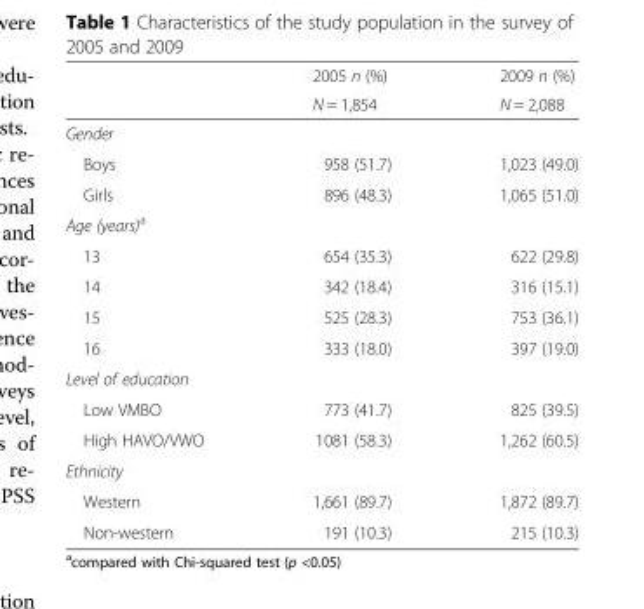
<table><thead><tr><td rowspan="2"></td><td rowspan="2">2005 n (%) N = 1,854</td><td rowspan="2">2009 n (%) N = 2,088</td></tr><tr></tr></thead><tbody><tr><td colspan="3">Gender</td></tr><tr><td>Boys</td><td>958 (51.7)</td><td>1,023 (49.0)</td></tr><tr><td>Girls</td><td>896 (48.3)</td><td>1,065 (51.0)</td></tr><tr><td colspan="3">Age (years)<sup>a</sup></td></tr><tr><td>13</td><td>654 (35.3)</td><td>622 (29.8)</td></tr><tr><td>14</td><td>342 (18.4)</td><td>316 (15.1)</td></tr><tr><td>15</td><td>525 (28.3)</td><td>753 (36.1)</td></tr><tr><td>16</td><td>333 (18.0)</td><td>397 (19.0)</td></tr><tr><td colspan="3">Level of education</td></tr><tr><td>Low VMBO</td><td>773 (41.7)</td><td>825 (39.5)</td></tr><tr><td>High HAVO/VWO</td><td>1081 (58.3)</td><td>1,262 (60.5)</td></tr><tr><td colspan="3">Ethnicity</td></tr><tr><td>Western</td><td>1,661 (89.7)</td><td>1,872 (89.7)</td></tr><tr><td>Non-western</td><td>191 (10.3)</td><td>215 (10.3)</td></tr></tbody></table>